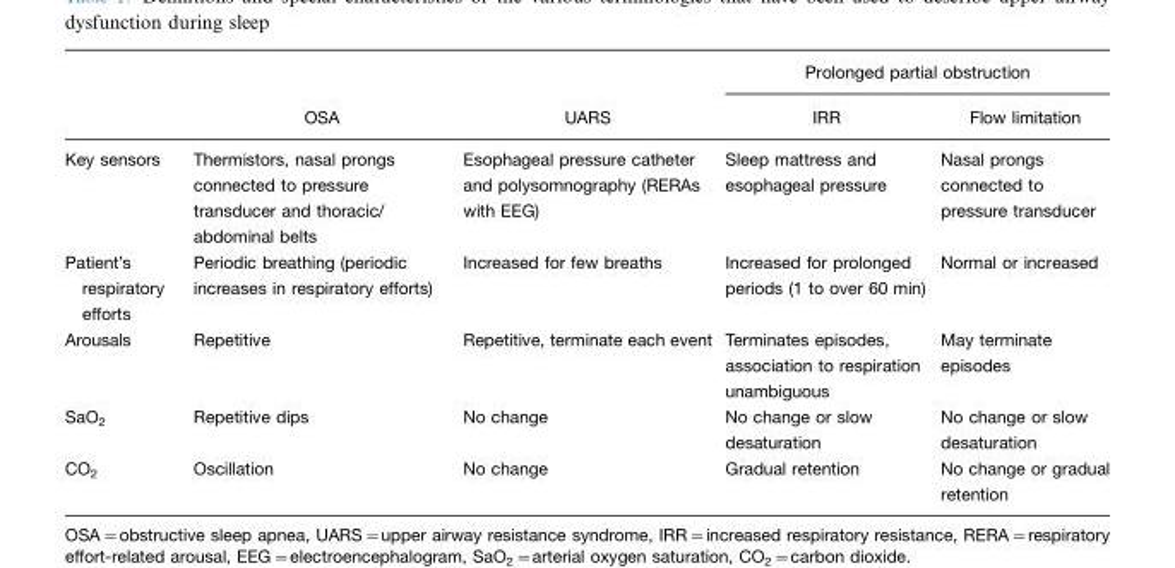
<table><thead><tr><td rowspan="2"></td><td rowspan="2">OSA</td><td rowspan="2">UARS</td><td colspan="2">Prolonged partial obstruction</td></tr><tr><td>IRR</td><td>Flow limitation</td></tr></thead><tbody><tr><td>Key sensors</td><td>Thermistors, nasal prongs connected to pressure transducer and thoracic/ abdominal belts</td><td>Esophageal pressure catheter and polysomnography (RERAs with EEG)</td><td>Sleep mattress and esophageal pressure</td><td>Nasal prongs connected to pressure transducer</td></tr><tr><td>Patient’s respiratory efforts</td><td>Periodic breathing (periodic increases in respiratory efforts)</td><td>Increased for few breaths</td><td>Increased for prolonged periods (1 to over 60 min)</td><td>Normal or increased</td></tr><tr><td>Arousals</td><td>Repetitive</td><td>Repetitive, terminate each event</td><td>Terminates episodes, association to respiration unambiguous</td><td>May terminate episodes</td></tr><tr><td>SaO<sub>2</sub></td><td>Repetitive dips</td><td>No change</td><td>No change or slow desaturation</td><td>No change or slow desaturation</td></tr><tr><td>CO<sub>2</sub></td><td>Oscillation</td><td>No change</td><td>Gradual retention</td><td>No change or gradual retention</td></tr></tbody></table>